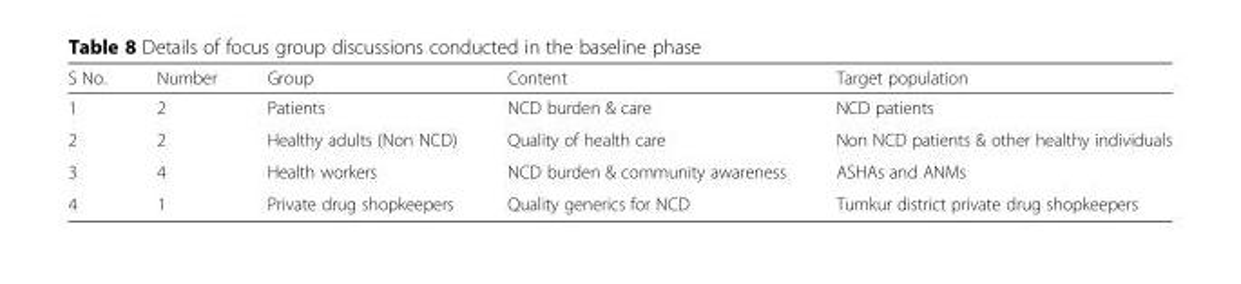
<table><thead><tr><td>S No.</td><td>Number</td><td>Group</td><td>Content</td><td>Target population</td></tr></thead><tbody><tr><td>1</td><td>2</td><td>Patients</td><td>NCD burden &amp; care</td><td>NCD patients</td></tr><tr><td>2</td><td>2</td><td>Healthy adults (Non NCD)</td><td>Quality of health care</td><td>Non NCD patients &amp; other healthy individuals</td></tr><tr><td>3</td><td>4</td><td>Health workers</td><td>NCD burden &amp; community awareness</td><td>ASHAs and ANMs</td></tr><tr><td>4</td><td>1</td><td>Private drug shopkeepers</td><td>Quality generics for NCD</td><td>Tumkur district private drug shopkeepers</td></tr></tbody></table>